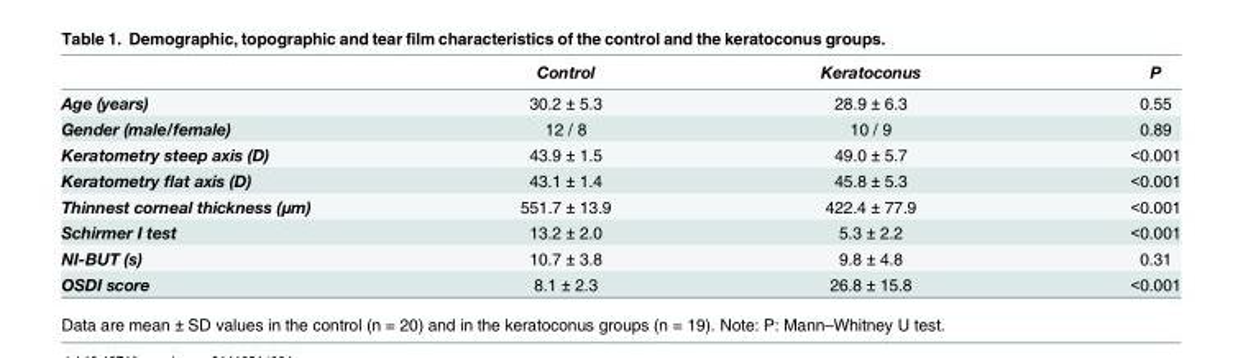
<table><thead><tr><td></td><td>Control</td><td>Keratoconus</td><td>P</td></tr></thead><tbody><tr><td>Age (years)</td><td>30.2 ± 5.3</td><td>28.9 ± 6.3</td><td>0.55</td></tr><tr><td>Gender (male/female)</td><td>12 / 8</td><td>10 / 9</td><td>0.89</td></tr><tr><td>Keratometry steep axis (D)</td><td>43.9 ± 1.5</td><td>49.0 ± 5.7</td><td>&lt;0.001</td></tr><tr><td>Keratometry flat axis (D)</td><td>43.1 ± 1.4</td><td>45.8 ± 5.3</td><td>&lt;0.001</td></tr><tr><td>Thinnest corneal thickness (μm)</td><td>551.7 ± 13.9</td><td>422.4 ± 77.9</td><td>&lt;0.001</td></tr><tr><td>Schirmer I test</td><td>13.2 ± 2.0</td><td>5.3 ± 2.2</td><td>&lt;0.001</td></tr><tr><td>NI-BUT (s)</td><td>10.7 ± 3.8</td><td>9.8 ± 4.8</td><td>0.31</td></tr><tr><td>OSDI score</td><td>8.1 ± 2.3</td><td>26.8 ± 15.8</td><td>&lt;0.001</td></tr></tbody></table>